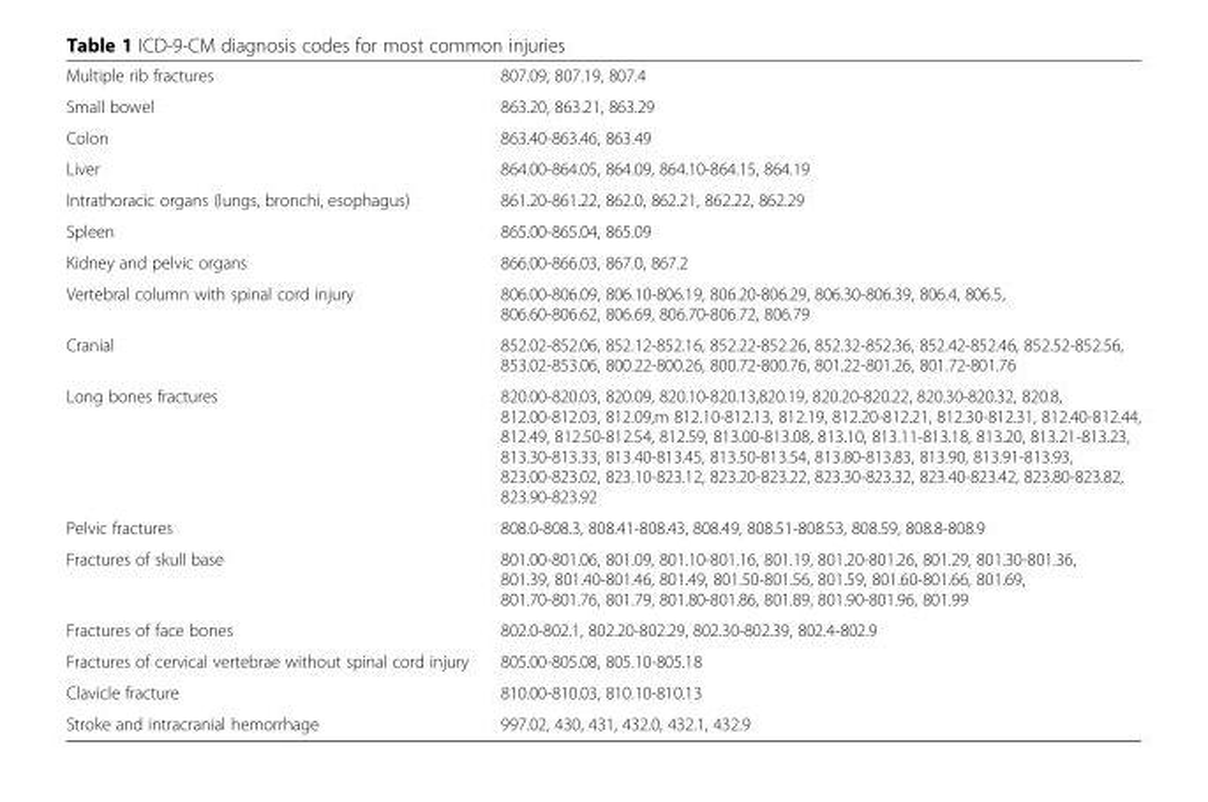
<table><tbody><tr><td>Multiple rib fractures</td><td>807.09, 807.19, 807.4</td></tr><tr><td>Small bowel</td><td>863.20, 863.21, 863.29</td></tr><tr><td>Colon</td><td>863.40-863.46, 863.49</td></tr><tr><td>Liver</td><td>864.00-864.05, 864.09, 864.10-864.15, 864.19</td></tr><tr><td>Intrathoracic organs (lungs, bronchi, esophagus)</td><td>861.20-861.22, 862.0, 862.21, 862.22, 862.29</td></tr><tr><td>Spleen</td><td>865.00-865.04, 865.09</td></tr><tr><td>Kidney and pelvic organs</td><td>866.00-866.03, 867.0, 867.2</td></tr><tr><td>Vertebral column with spinal cord injury</td><td>806.00-806.09, 806.10-806.19, 806.20-806.29, 806.30-806.39, 806.4, 806.5, 806.60-806.62, 806.69, 806.70-806.72, 806.79</td></tr><tr><td>Cranial</td><td>852.02-852.06, 852.12-852.16, 852.22-852.26, 852.32-852.36, 852.42-852.46, 852.52-852.56, 853.02-853.06, 800.22-800.26, 800.72-800.76, 801.22-801.26, 801.72-801.76</td></tr><tr><td>Long bones fractures</td><td>820.00-820.03, 820.09, 820.10-820.13,820.19, 820.20-820.22, 820.30-820.32, 820.8, 812.00-812.03, 812.09,m 812.10-812.13, 812.19, 812.20-812.21, 812.30-812.31, 812.40-812.44, 812.49, 812.50-812.54, 812.59, 813.00-813.08, 813.10, 813.11-813.18, 813.20, 813.21-813.23, 813.30-813.33, 813.40-813.45, 813.50-813.54, 813.80-813.83, 813.90, 813.91-813.93, 823.00-823.02, 823.10-823.12, 823.20-823.22, 823.30-823.32, 823.40-823.42, 823.80-823.82, 823.90-823.92</td></tr><tr><td>Pelvic fractures</td><td>808.0-808.3, 808.41-808.43, 808.49, 808.51-808.53, 808.59, 808.8-808.9</td></tr><tr><td>Fractures of skull base</td><td>801.00-801.06, 801.09, 801.10-801.16, 801.19, 801.20-801.26, 801.29, 801.30-801.36, 801.39, 801.40-801.46, 801.49, 801.50-801.56, 801.59, 801.60-801.66, 801.69, 801.70-801.76, 801.79, 801.80-801.86, 801.89, 801.90-801.96, 801.99</td></tr><tr><td>Fractures of face bones</td><td>802.0-802.1, 802.20-802.29, 802.30-802.39, 802.4-802.9</td></tr><tr><td>Fractures of cervical vertebrae without spinal cord injury</td><td>805.00-805.08, 805.10-805.18</td></tr><tr><td>Clavicle fracture</td><td>810.00-810.03, 810.10-810.13</td></tr><tr><td>Stroke and intracranial hemorrhage</td><td>997.02, 430, 431, 432.0, 432.1, 432.9</td></tr></tbody></table>